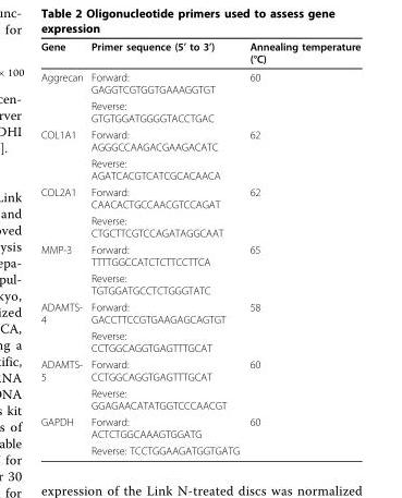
<table><thead><tr><td>Gene</td><td>Primer sequence (5’ to 3’)</td><td>Annealing temperature (°C)</td></tr></thead><tbody><tr><td rowspan="2">Aggrecan</td><td>Forward: GAGGTCGTGGTGAAAGGTGT</td><td>60</td></tr><tr><td>Reverse: GTGTGGATGGGGTACCTGAC</td><td></td></tr><tr><td rowspan="2">COL1A1</td><td>Forward: AGGGCCAAGACGAAGACATC</td><td>62</td></tr><tr><td>Reverse: AGATCACGTCATCGCACAACA</td><td></td></tr><tr><td rowspan="2">COL2A1</td><td>Forward: CAACACTGCCAACGTCCAGAT</td><td>62</td></tr><tr><td>Reverse: CTGCTTCGTCCAGATAGGCAAT</td><td></td></tr><tr><td rowspan="2">MMP-3</td><td>Forward: TTTTGGCCATCTCTTCCTTCA</td><td>65</td></tr><tr><td>Reverse: TGTGGATGCCTCTGGGTATC</td><td></td></tr><tr><td rowspan="2">ADAMTS- 4</td><td>Forward: GACCTTCCGTGAAGAGCAGTGT</td><td>58</td></tr><tr><td>Reverse: CCTGGCAGGTGAGTTTGCAT</td><td></td></tr><tr><td rowspan="2">ADAMTS- 5</td><td>Forward: CCTGGCAGGTGAGTTTGCAT</td><td>60</td></tr><tr><td>Reverse: GGAGAACATATGGTCCCAACGT</td><td></td></tr><tr><td rowspan="2">GAPDH</td><td>Forward: ACTCTGGCAAAGTGGATG</td><td>60</td></tr><tr><td>Reverse: TCCTGGAAGATGGTGATG</td><td></td></tr></tbody></table>